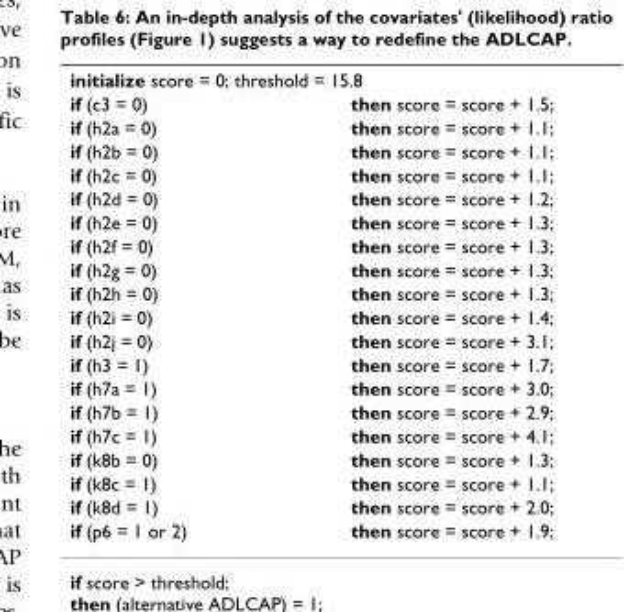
<table><tbody><tr><td colspan="2">initialize score = 0; threshold = 15.8</td></tr><tr><td>if (c3 = 0)</td><td>then score = score + 1.5;</td></tr><tr><td>if (h2a = 0)</td><td>then score = score + 1.1;</td></tr><tr><td>if (h2b = 0)</td><td>then score = score + 1.1;</td></tr><tr><td>if (h2c = 0)</td><td>then score = score + 1.1;</td></tr><tr><td>if (h2d = 0)</td><td>then score = score + 1.2;</td></tr><tr><td>if (h2e = 0)</td><td>then score = score + 1.3;</td></tr><tr><td>if (h2f = 0)</td><td>then score = score + 1.3;</td></tr><tr><td>if (h2g = 0)</td><td>then score = score + 1.3;</td></tr><tr><td>if (h2h = 0)</td><td>then score = score + 1.3;</td></tr><tr><td>if (h2i = 0)</td><td>then score = score + 1.4;</td></tr><tr><td>if (h2j = 0)</td><td>then score = score + 3.1;</td></tr><tr><td>if (h3 = 1)</td><td>then score = score + 1.7;</td></tr><tr><td>if (h7a = 1)</td><td>then score = score + 3.0;</td></tr><tr><td>if (h7b = 1)</td><td>then score = score + 2.9;</td></tr><tr><td>if (h7c = 1)</td><td>then score = score + 4.1;</td></tr><tr><td>if (k8b = 0)</td><td>then score = score + 1.3;</td></tr><tr><td>if (k8c = 1)</td><td>then score = score + 1.1;</td></tr><tr><td>if (k8d = 1)</td><td>then score = score + 2.0;</td></tr><tr><td>if (p6 = 1 or 2)</td><td>then score = score + 1.9;</td></tr></tbody></table>